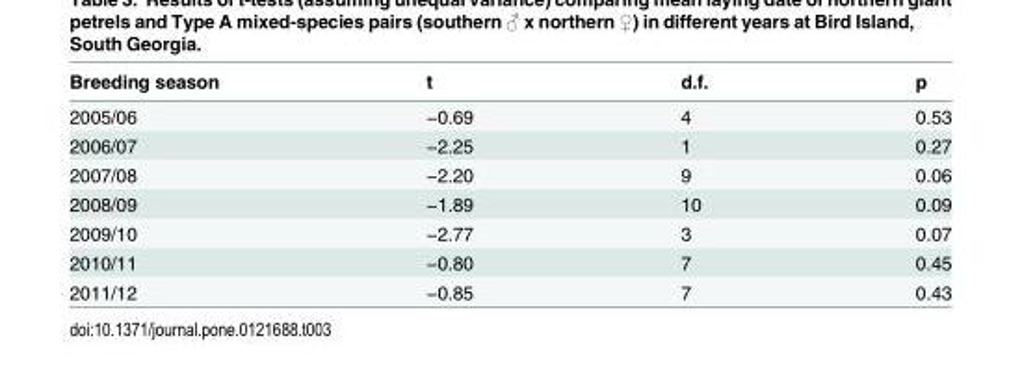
<table><thead><tr><td>Breeding season</td><td>t</td><td>d.f.</td><td>p</td></tr></thead><tbody><tr><td>2005/06</td><td>−0.69</td><td>4</td><td>0.53</td></tr><tr><td>2006/07</td><td>−2.25</td><td>1</td><td>0.27</td></tr><tr><td>2007/08</td><td>−2.20</td><td>9</td><td>0.06</td></tr><tr><td>2008/09</td><td>−1.89</td><td>10</td><td>0.09</td></tr><tr><td>2009/10</td><td>−2.77</td><td>3</td><td>0.07</td></tr><tr><td>2010/11</td><td>−0.80</td><td>7</td><td>0.45</td></tr><tr><td>2011/12</td><td>−0.85</td><td>7</td><td>0.43</td></tr></tbody></table>